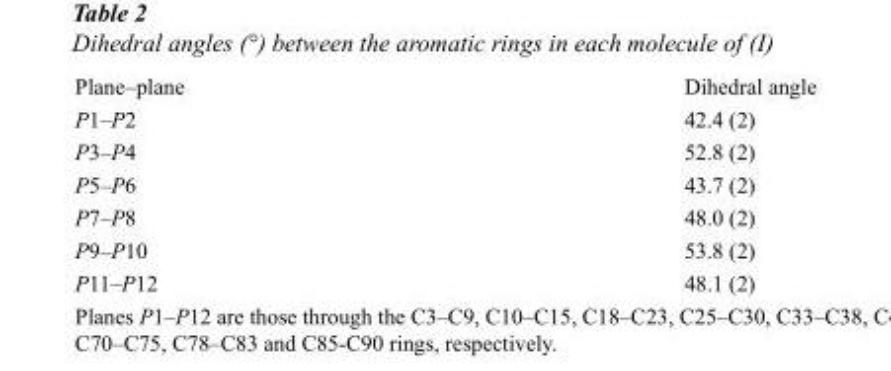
<table><tbody><tr><td>Plane–plane</td><td>Dihedral angle</td></tr><tr><td>P1–P2</td><td>42.4 (2)</td></tr><tr><td>P3–P4</td><td>52.8 (2)</td></tr><tr><td>P5–P6</td><td>43.7 (2)</td></tr><tr><td>P7–P8</td><td>48.0 (2)</td></tr><tr><td>P9–P10</td><td>53.8 (2)</td></tr><tr><td>P11–P12</td><td>48.1 (2)</td></tr></tbody></table>